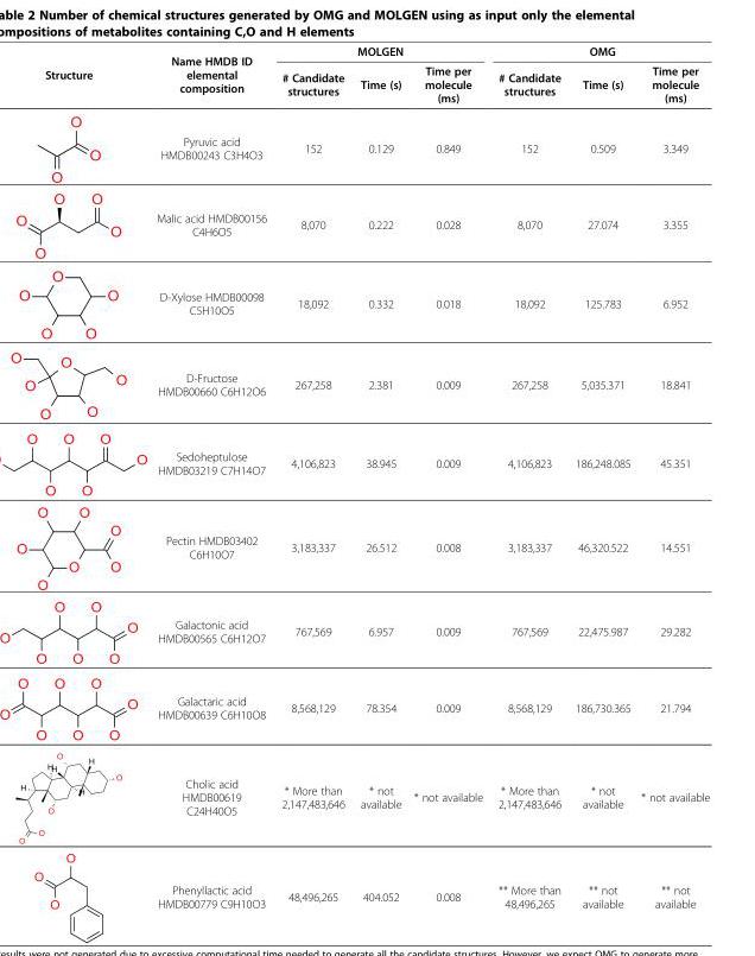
<table><thead><tr><td rowspan="2">Structure</td><td rowspan="2">Name HMDB ID elemental composition</td><td colspan="3">MOLGEN</td><td colspan="3">OMG</td></tr><tr><td># Candidate structures</td><td>Time (s)</td><td>Time per molecule (ms)</td><td># Candidate structures</td><td>Time (s)</td><td>Time per molecule (ms)</td></tr></thead><tbody><tr><td></td><td>Pyruvic acid HMDB00243 C3H4O3</td><td>152</td><td>0.129</td><td>0.849</td><td>152</td><td>0.509</td><td>3.349</td></tr><tr><td></td><td>Malic acid HMDB00156 C4H6O5</td><td>8,070</td><td>0.222</td><td>0.028</td><td>8,070</td><td>27.074</td><td>3.355</td></tr><tr><td></td><td>D-Xylose HMDB00098 C5H10O5</td><td>18,092</td><td>0.332</td><td>0.018</td><td>18,092</td><td>125.783</td><td>6.952</td></tr><tr><td></td><td>D-Fructose HMDB00660 C6H12O6</td><td>267,258</td><td>2.381</td><td>0.009</td><td>267,258</td><td>5,035.371</td><td>18.841</td></tr><tr><td></td><td>Sedoheptulose HMDB03219 C7H14O7</td><td>4,106,823</td><td>38.945</td><td>0.009</td><td>4,106,823</td><td>186,248.085</td><td>45.351</td></tr><tr><td></td><td>Pectin HMDB03402 C6H10O7</td><td>3,183,337</td><td>26.512</td><td>0.008</td><td>3,183,337</td><td>46,320.522</td><td>14.551</td></tr><tr><td></td><td>Galactonic acid HMDB00565 C6H12O7</td><td>767,569</td><td>6.957</td><td>0.009</td><td>767,569</td><td>22,475.987</td><td>29.282</td></tr><tr><td></td><td>Galactaric acid HMDB00639 C6H10O8</td><td>8,568,129</td><td>78.354</td><td>0.009</td><td>8,568,129</td><td>186,730.365</td><td>21.794</td></tr><tr><td></td><td>Cholic acid HMDB00619 C24H40O5</td><td>* More than 2,147,483,646</td><td>* not available</td><td>* not available</td><td>* More than 2,147,483,646</td><td>* not available</td><td>* not available</td></tr><tr><td></td><td>Phenyllactic acid HMDB00779 C9H10O3</td><td>48,496,265</td><td>404.052</td><td>0.008</td><td>** More than 48,496,265</td><td>** not available</td><td>** not available</td></tr></tbody></table>